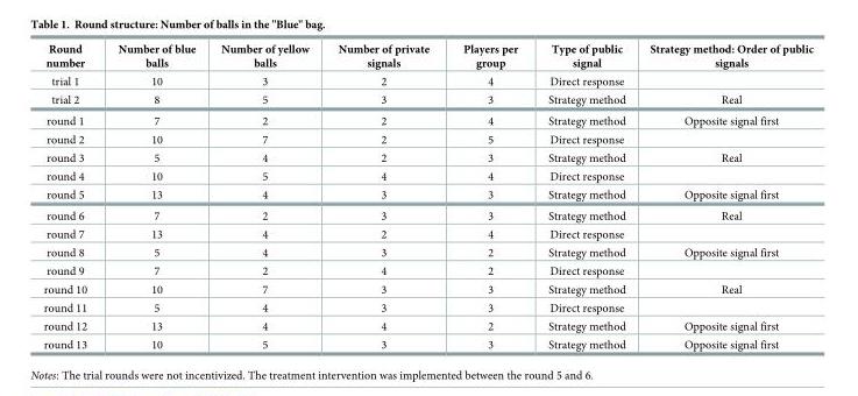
<table><thead><tr><td>Round number</td><td>Number of blue balls</td><td>Number of yellow balls</td><td>Number of private signals</td><td>Players per group</td><td>Type of public signal</td><td>Strategy method: Order of public signals</td></tr></thead><tbody><tr><td>trial 1</td><td>10</td><td>3</td><td>2</td><td>4</td><td>Direct response</td><td></td></tr><tr><td>trial 2</td><td>8</td><td>5</td><td>3</td><td>3</td><td>Strategy method</td><td>Real</td></tr><tr><td>round 1</td><td>7</td><td>2</td><td>2</td><td>4</td><td>Strategy method</td><td>Opposite signal first</td></tr><tr><td>round 2</td><td>10</td><td>7</td><td>2</td><td>5</td><td>Direct response</td><td></td></tr><tr><td>round 3</td><td>5</td><td>4</td><td>2</td><td>3</td><td>Strategy method</td><td>Real</td></tr><tr><td>round 4</td><td>10</td><td>5</td><td>4</td><td>4</td><td>Direct response</td><td></td></tr><tr><td>round 5</td><td>13</td><td>4</td><td>3</td><td>3</td><td>Strategy method</td><td>Opposite signal first</td></tr><tr><td>round 6</td><td>7</td><td>2</td><td>3</td><td>3</td><td>Strategy method</td><td>Real</td></tr><tr><td>round 7</td><td>13</td><td>4</td><td>2</td><td>4</td><td>Direct response</td><td></td></tr><tr><td>round 8</td><td>5</td><td>4</td><td>3</td><td>2</td><td>Strategy method</td><td>Opposite signal first</td></tr><tr><td>round 9</td><td>7</td><td>2</td><td>4</td><td>2</td><td>Direct response</td><td></td></tr><tr><td>round 10</td><td>10</td><td>7</td><td>3</td><td>3</td><td>Strategy method</td><td>Real</td></tr><tr><td>round 11</td><td>5</td><td>4</td><td>3</td><td>3</td><td>Direct response</td><td></td></tr><tr><td>round 12</td><td>13</td><td>4</td><td>4</td><td>2</td><td>Strategy method</td><td>Opposite signal first</td></tr><tr><td>round 13</td><td>10</td><td>5</td><td>3</td><td>3</td><td>Strategy method</td><td>Opposite signal first</td></tr></tbody></table>